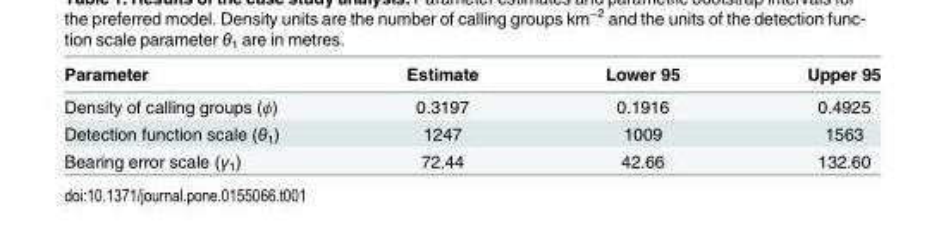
<table><thead><tr><td>Parameter</td><td>Estimate</td><td>Lower 95</td><td>Upper 95</td></tr></thead><tbody><tr><td>Density of calling groups (ϕ)</td><td>0.3197</td><td>0.1916</td><td>0.4925</td></tr><tr><td>Detection function scale (θ<sub>1</sub>)</td><td>1247</td><td>1009</td><td>1563</td></tr><tr><td>Bearing error scale (γ<sub>1</sub>)</td><td>72.44</td><td>42.66</td><td>132.60</td></tr></tbody></table>